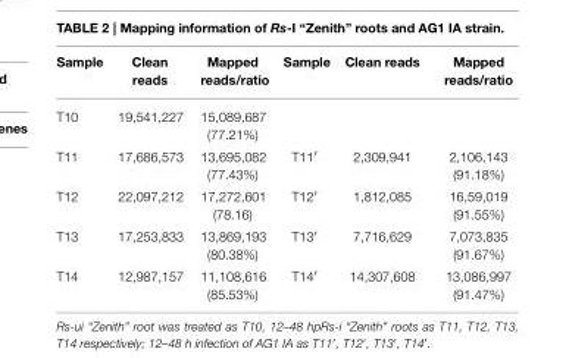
<table><thead><tr><td>Sample</td><td>Clean reads</td><td>Mapped reads/ratio</td><td>Sample</td><td>Clean reads</td><td>Mapped reads/ratio</td></tr></thead><tbody><tr><td>T10</td><td>19,541,227</td><td>15,089,687 (77.21%)</td><td></td><td></td><td></td></tr><tr><td>T11</td><td>17,686,573</td><td>13,695,082 (77.43%)</td><td>T11′</td><td>2,309,941</td><td>2,106,143 (91.18%)</td></tr><tr><td>T12</td><td>22,097,212</td><td>17,272,601 (78.16)</td><td>T12′</td><td>1,812,085</td><td>16,59,019 (91.55%)</td></tr><tr><td>T13</td><td>17,253,833</td><td>13,869,193 (80.38%)</td><td>T13′</td><td>7,716,629</td><td>7,073,835 (91.67%)</td></tr><tr><td>T14</td><td>12,987,157</td><td>11,108,616 (85.53%)</td><td>T14′</td><td>14,307,608</td><td>13,086,997 (91.47%)</td></tr></tbody></table>